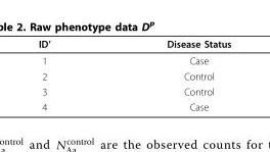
<table><thead><tr><td>ID’</td><td>Disease Status</td></tr></thead><tbody><tr><td>1</td><td>Case</td></tr><tr><td>2</td><td>Control</td></tr><tr><td>3</td><td>Control</td></tr><tr><td>4</td><td>Case</td></tr></tbody></table>